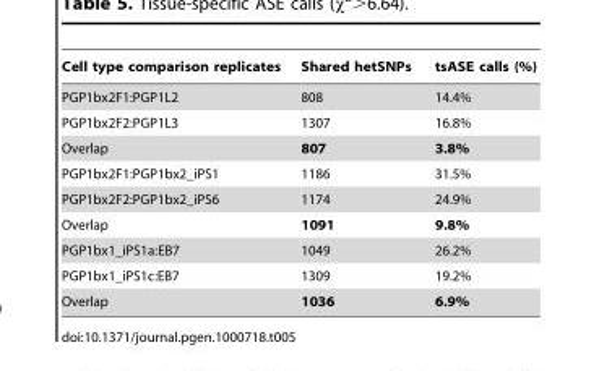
<table><thead><tr><td>Cell type comparison replicates</td><td>Shared hetSNPs</td><td>tsASE calls (%)</td></tr></thead><tbody><tr><td>PGP1bx2F1:PGP1L2</td><td>808</td><td>14.4%</td></tr><tr><td>PGP1bx2F2:PGP1L3</td><td>1307</td><td>16.8%</td></tr><tr><td>Overlap</td><td>807</td><td>3.8%</td></tr><tr><td>PGP1bx2F1:PGP1bx2_iPS1</td><td>1186</td><td>31.5%</td></tr><tr><td>PGP1bx2F2:PGP1bx2_iPS6</td><td>1174</td><td>24.9%</td></tr><tr><td>Overlap</td><td>1091</td><td>9.8%</td></tr><tr><td>PGP1bx1_iPS1a:EB7</td><td>1049</td><td>26.2%</td></tr><tr><td>PGP1bx1_iPS1c:EB7</td><td>1309</td><td>19.2%</td></tr><tr><td>Overlap</td><td>1036</td><td>6.9%</td></tr></tbody></table>